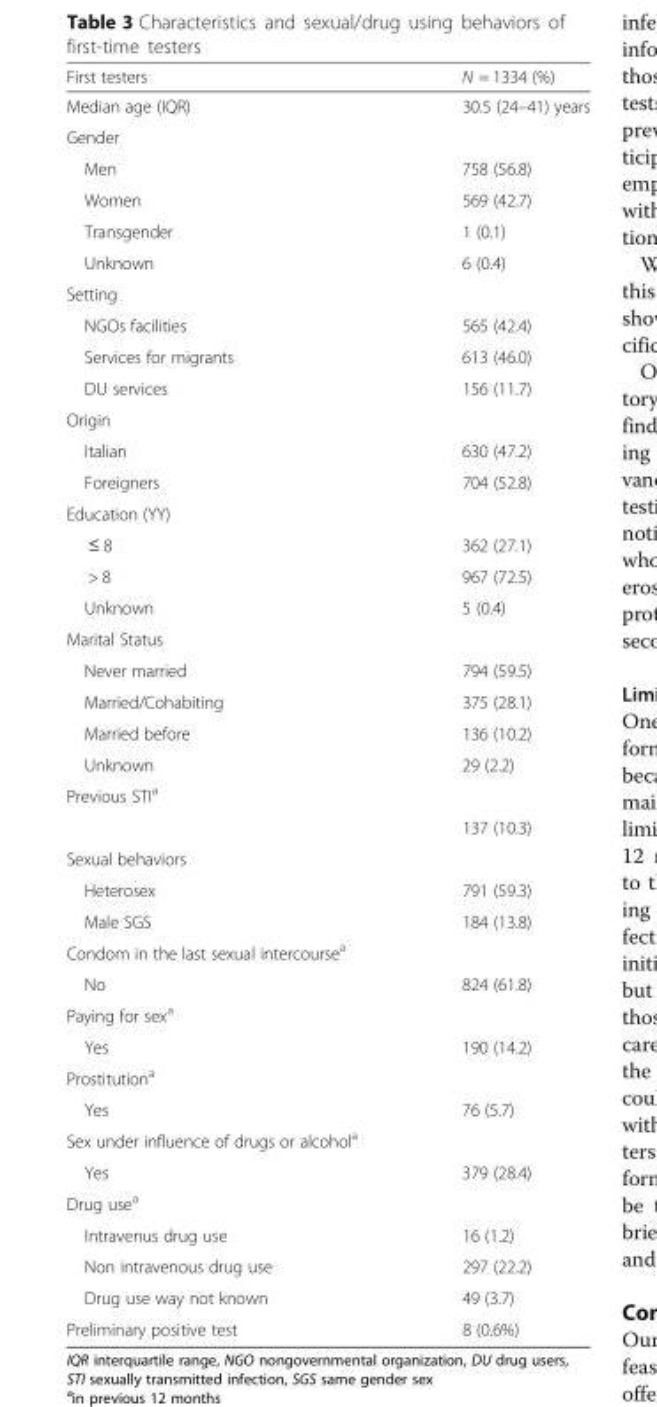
<table><thead><tr><td>First testers</td><td>N = 1334 (%)</td></tr></thead><tbody><tr><td>Median age (IQR)</td><td>30.5 (24–41) years</td></tr><tr><td colspan="2">Gender</td></tr><tr><td>Men</td><td>758 (56.8)</td></tr><tr><td>Women</td><td>569 (42.7)</td></tr><tr><td>Transgender</td><td>1 (0.1)</td></tr><tr><td>Unknown</td><td>6 (0.4)</td></tr><tr><td colspan="2">Setting</td></tr><tr><td>NGOs facilities</td><td>565 (42.4)</td></tr><tr><td>Services for migrants</td><td>613 (46.0)</td></tr><tr><td>DU services</td><td>156 (11.7)</td></tr><tr><td colspan="2">Origin</td></tr><tr><td>Italian</td><td>630 (47.2)</td></tr><tr><td>Foreigners</td><td>704 (52.8)</td></tr><tr><td colspan="2">Education (YY)</td></tr><tr><td>≤ 8</td><td>362 (27.1)</td></tr><tr><td>&gt; 8</td><td>967 (72.5)</td></tr><tr><td>Unknown</td><td>5 (0.4)</td></tr><tr><td colspan="2">Marital Status</td></tr><tr><td>Never married</td><td>794 (59.5)</td></tr><tr><td>Married/Cohabiting</td><td>375 (28.1)</td></tr><tr><td>Married before</td><td>136 (10.2)</td></tr><tr><td>Unknown</td><td>29 (2.2)</td></tr><tr><td colspan="2">Previous STI<sup>a</sup></td></tr><tr><td></td><td>137 (10.3)</td></tr><tr><td colspan="2">Sexual behaviors</td></tr><tr><td>Heterosex</td><td>791 (59.3)</td></tr><tr><td>Male SGS</td><td>184 (13.8)</td></tr><tr><td colspan="2">Condom in the last sexual intercourse<sup>a</sup></td></tr><tr><td>No</td><td>824 (61.8)</td></tr><tr><td colspan="2">Paying for sex<sup>a</sup></td></tr><tr><td>Yes</td><td>190 (14.2)</td></tr><tr><td colspan="2">Prostitution<sup>a</sup></td></tr><tr><td>Yes</td><td>76 (5.7)</td></tr><tr><td colspan="2">Sex under influence of drugs or alcohol<sup>a</sup></td></tr><tr><td>Yes</td><td>379 (28.4)</td></tr><tr><td colspan="2">Drug use<sup>a</sup></td></tr><tr><td>Intravenus drug use</td><td>16 (1.2)</td></tr><tr><td>Non intravenous drug use</td><td>297 (22.2)</td></tr><tr><td>Drug use way not known</td><td>49 (3.7)</td></tr><tr><td>Preliminary positive test</td><td>8 (0.6%)</td></tr></tbody></table>